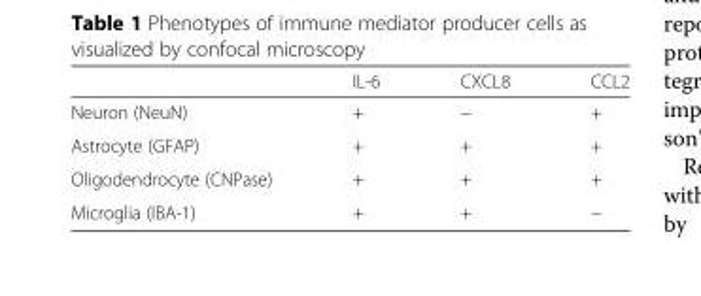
<table><thead><tr><td></td><td>IL-6</td><td>CXCL8</td><td>CCL2</td></tr></thead><tbody><tr><td>Neuron (NeuN)</td><td>+</td><td>−</td><td>+</td></tr><tr><td>Astrocyte (GFAP)</td><td>+</td><td>+</td><td>+</td></tr><tr><td>Oligodendrocyte (CNPase)</td><td>+</td><td>+</td><td>+</td></tr><tr><td>Microglia (IBA-1)</td><td>+</td><td>+</td><td>−</td></tr></tbody></table>